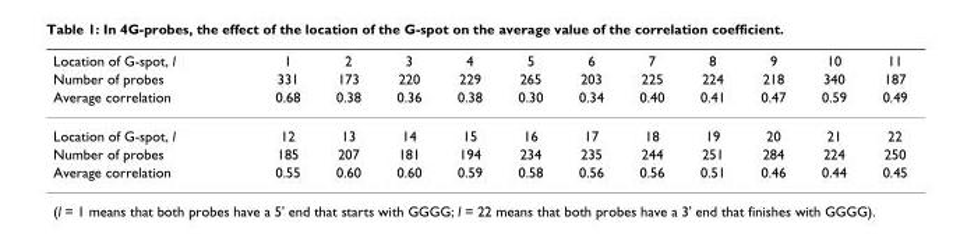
<table><thead><tr><td rowspan="3">Location of G-spot, l Number of probes Average correlation</td><td rowspan="3">1 331 0.68</td><td rowspan="3">2 173 0.38</td><td rowspan="3">3 220 0.36</td><td rowspan="3">4 229 0.38</td><td rowspan="3">5 265 0.30</td><td rowspan="3">6 203 0.34</td><td rowspan="3">7 225 0.40</td><td rowspan="3">8 224 0.41</td><td rowspan="3">9 218 0.47</td><td rowspan="3">10 340 0.59</td><td rowspan="3">11 187 0.49</td></tr><tr></tr><tr></tr></thead><tbody><tr><td>Location of G-spot, l</td><td>12</td><td>13</td><td>14</td><td>15</td><td>16</td><td>17</td><td>18</td><td>19</td><td>20</td><td>21</td><td>22</td></tr><tr><td>Number of probes</td><td>185</td><td>207</td><td>181</td><td>194</td><td>234</td><td>235</td><td>244</td><td>251</td><td>284</td><td>224</td><td>250</td></tr><tr><td>Average correlation</td><td>0.55</td><td>0.60</td><td>0.60</td><td>0.59</td><td>0.58</td><td>0.56</td><td>0.56</td><td>0.51</td><td>0.46</td><td>0.44</td><td>0.45</td></tr></tbody></table>